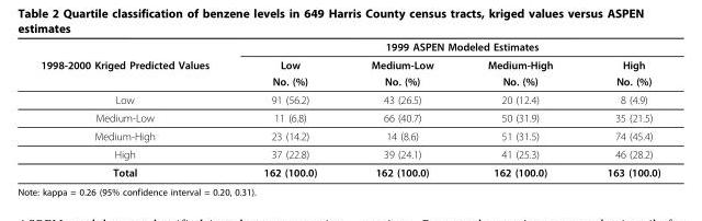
<table><thead><tr><td rowspan="3">1998-2000 Kriged Predicted Values</td><td colspan="4">1999 ASPEN Modeled Estimates</td></tr><tr><td rowspan="2">Low No. (%)</td><td rowspan="2">Medium-Low No. (%)</td><td rowspan="2">Medium-High No. (%)</td><td rowspan="2">High No. (%)</td></tr><tr></tr></thead><tbody><tr><td>Low</td><td>91 (56.2)</td><td>43 (26.5)</td><td>20 (12.4)</td><td>8 (4.9)</td></tr><tr><td>Medium-Low</td><td>11 (6.8)</td><td>66 (40.7)</td><td>50 (31.9)</td><td>35 (21.5)</td></tr><tr><td>Medium-High</td><td>23 (14.2)</td><td>14 (8.6)</td><td>51 (31.5)</td><td>74 (45.4)</td></tr><tr><td>High</td><td>37 (22.8)</td><td>39 (24.1)</td><td>41 (25.3)</td><td>46 (28.2)</td></tr><tr><td>Total</td><td>162 (100.0)</td><td>162 (100.0)</td><td>162 (100.0)</td><td>163 (100.0)</td></tr></tbody></table>